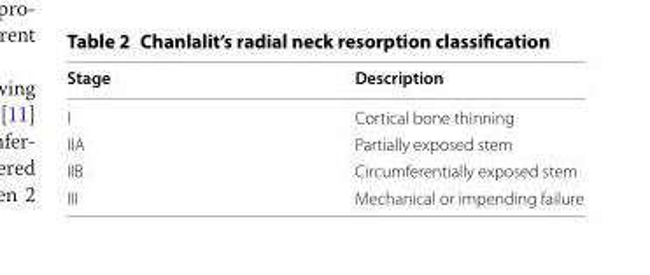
<table><thead><tr><td>Stage</td><td>Description</td></tr></thead><tbody><tr><td>I</td><td>Cortical bone thinning</td></tr><tr><td>IIA</td><td>Partially exposed stem</td></tr><tr><td>IIB</td><td>Circumferentially exposed stem</td></tr><tr><td>III</td><td>Mechanical or impending failure</td></tr></tbody></table>